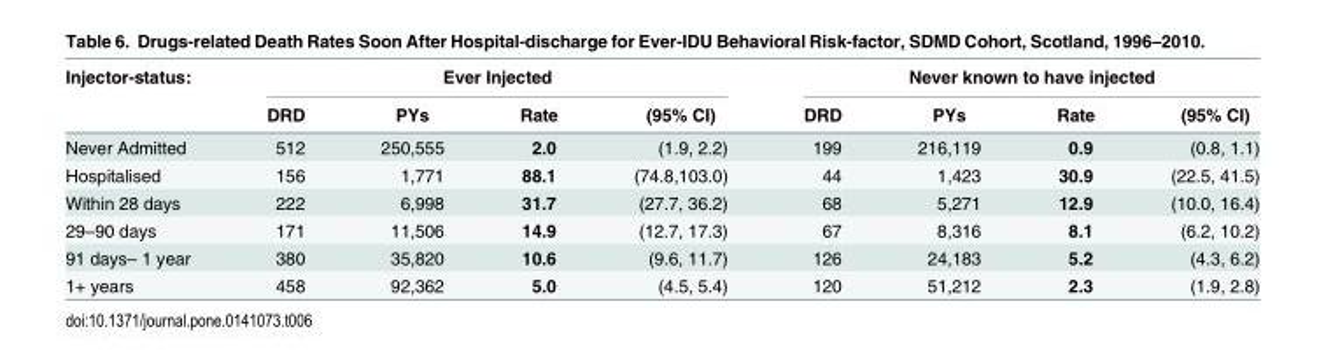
<table><thead><tr><td rowspan="2">Injector-status:</td><td colspan="4">Ever Injected</td><td colspan="4">Never known to have injected</td></tr><tr><td>DRD</td><td>PYs</td><td>Rate</td><td>(95% CI)</td><td>DRD</td><td>PYs</td><td>Rate</td><td>(95% CI)</td></tr></thead><tbody><tr><td>Never Admitted</td><td>512</td><td>250,555</td><td>2.0</td><td>(1.9, 2.2)</td><td>199</td><td>216,119</td><td>0.9</td><td>(0.8, 1.1)</td></tr><tr><td>Hospitalised</td><td>156</td><td>1,771</td><td>88.1</td><td>(74.8,103.0)</td><td>44</td><td>1,423</td><td>30.9</td><td>(22.5, 41.5)</td></tr><tr><td>Within 28 days</td><td>222</td><td>6,998</td><td>31.7</td><td>(27.7, 36.2)</td><td>68</td><td>5,271</td><td>12.9</td><td>(10.0, 16.4)</td></tr><tr><td>29–90 days</td><td>171</td><td>11,506</td><td>14.9</td><td>(12.7, 17.3)</td><td>67</td><td>8,316</td><td>8.1</td><td>(6.2, 10.2)</td></tr><tr><td>91 days– 1 year</td><td>380</td><td>35,820</td><td>10.6</td><td>(9.6, 11.7)</td><td>126</td><td>24,183</td><td>5.2</td><td>(4.3, 6.2)</td></tr><tr><td>1+ years</td><td>458</td><td>92,362</td><td>5.0</td><td>(4.5, 5.4)</td><td>120</td><td>51,212</td><td>2.3</td><td>(1.9, 2.8)</td></tr></tbody></table>